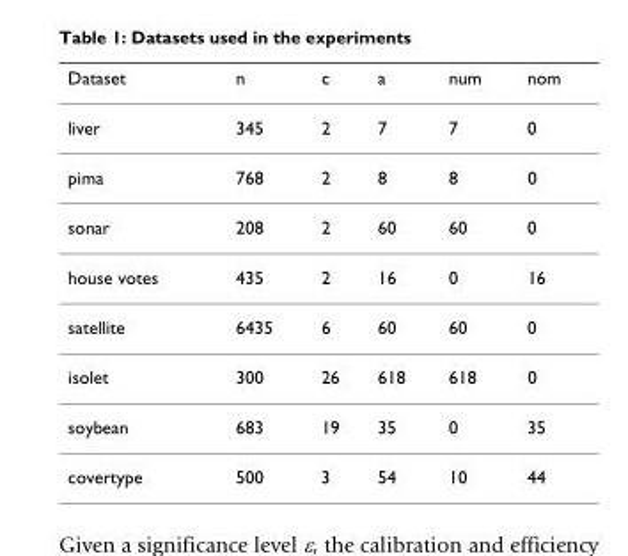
<table><thead><tr><td>Dataset</td><td>n</td><td>c</td><td>a</td><td>num</td><td>nom</td></tr></thead><tbody><tr><td>liver</td><td>345</td><td>2</td><td>7</td><td>7</td><td>0</td></tr><tr><td>pima</td><td>768</td><td>2</td><td>8</td><td>8</td><td>0</td></tr><tr><td>sonar</td><td>208</td><td>2</td><td>60</td><td>60</td><td>0</td></tr><tr><td>house votes</td><td>435</td><td>2</td><td>16</td><td>0</td><td>16</td></tr><tr><td>satellite</td><td>6435</td><td>6</td><td>60</td><td>60</td><td>0</td></tr><tr><td>isolet</td><td>300</td><td>26</td><td>618</td><td>618</td><td>0</td></tr><tr><td>soybean</td><td>683</td><td>19</td><td>35</td><td>0</td><td>35</td></tr><tr><td>covertype</td><td>500</td><td>3</td><td>54</td><td>10</td><td>44</td></tr></tbody></table>